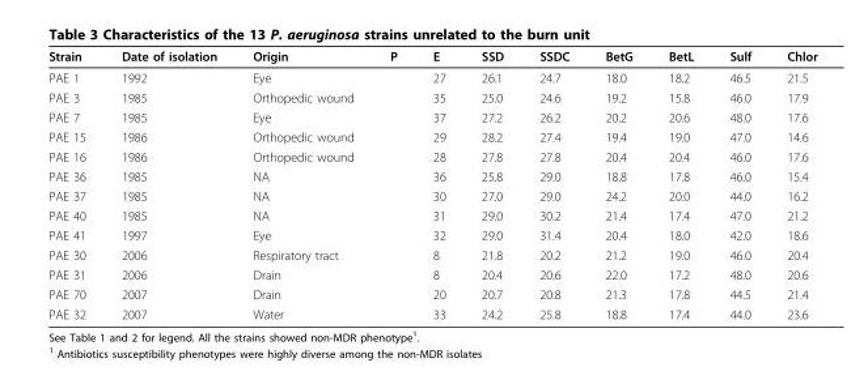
<table><thead><tr><td>Strain</td><td>Date of isolation</td><td>Origin</td><td>P</td><td>E</td><td>SSD</td><td>SSDC</td><td>BetG</td><td>BetL</td><td>Sulf</td><td>Chlor</td></tr></thead><tbody><tr><td>PAE 1</td><td>1992</td><td>Eye</td><td></td><td>27</td><td>26.1</td><td>24.7</td><td>18.0</td><td>18.2</td><td>46.5</td><td>21.5</td></tr><tr><td>PAE 3</td><td>1985</td><td>Orthopedic wound</td><td></td><td>35</td><td>25.0</td><td>24.6</td><td>19.2</td><td>15.8</td><td>46.0</td><td>17.9</td></tr><tr><td>PAE 7</td><td>1985</td><td>Eye</td><td></td><td>37</td><td>27.2</td><td>26.2</td><td>20.2</td><td>20.6</td><td>48.0</td><td>17.6</td></tr><tr><td>PAE 15</td><td>1986</td><td>Orthopedic wound</td><td></td><td>29</td><td>28.2</td><td>27.4</td><td>19.4</td><td>19.0</td><td>47.0</td><td>14.6</td></tr><tr><td>PAE 16</td><td>1986</td><td>Orthopedic wound</td><td></td><td>28</td><td>27.8</td><td>27.8</td><td>20.4</td><td>20.4</td><td>46.0</td><td>17.6</td></tr><tr><td>PAE 36</td><td>1985</td><td>NA</td><td></td><td>36</td><td>25.8</td><td>29.0</td><td>18.8</td><td>17.8</td><td>46.0</td><td>15.4</td></tr><tr><td>PAE 37</td><td>1985</td><td>NA</td><td></td><td>30</td><td>27.0</td><td>29.0</td><td>24.2</td><td>20.0</td><td>44.0</td><td>16.2</td></tr><tr><td>PAE 40</td><td>1985</td><td>NA</td><td></td><td>31</td><td>29.0</td><td>30.2</td><td>21.4</td><td>17.4</td><td>47.0</td><td>21.2</td></tr><tr><td>PAE 41</td><td>1997</td><td>Eye</td><td></td><td>32</td><td>29.0</td><td>31.4</td><td>20.4</td><td>18.0</td><td>42.0</td><td>18.6</td></tr><tr><td>PAE 30</td><td>2006</td><td>Respiratory tract</td><td></td><td>8</td><td>21.8</td><td>20.2</td><td>21.2</td><td>19.0</td><td>46.0</td><td>20.4</td></tr><tr><td>PAE 31</td><td>2006</td><td>Drain</td><td></td><td>8</td><td>20.4</td><td>20.6</td><td>22.0</td><td>17.2</td><td>48.0</td><td>20.6</td></tr><tr><td>PAE 70</td><td>2007</td><td>Drain</td><td></td><td>20</td><td>20.7</td><td>20.8</td><td>21.3</td><td>17.8</td><td>44.5</td><td>21.4</td></tr><tr><td>PAE 32</td><td>2007</td><td>Water</td><td></td><td>33</td><td>24.2</td><td>25.8</td><td>18.8</td><td>17.4</td><td>44.0</td><td>23.6</td></tr></tbody></table>